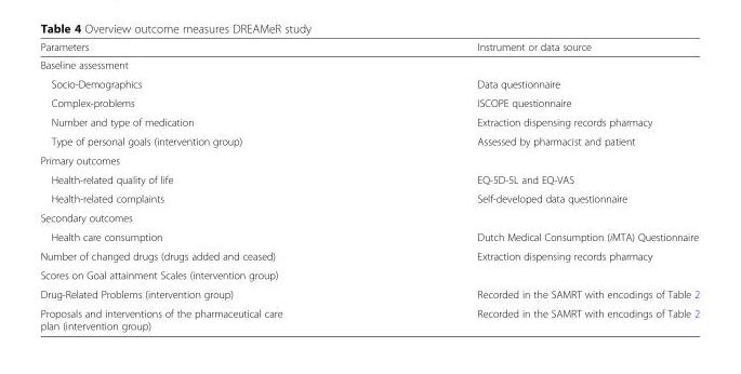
<table><thead><tr><td>Parameters</td><td>Instrument or data source</td></tr></thead><tbody><tr><td colspan="2">Baseline assessment</td></tr><tr><td>Socio-Demographics</td><td>Data questionnaire</td></tr><tr><td>Complex-problems</td><td>ISCOPE questionnaire</td></tr><tr><td>Number and type of medication</td><td>Extraction dispensing records pharmacy</td></tr><tr><td>Type of personal goals (intervention group)</td><td>Assessed by pharmacist and patient</td></tr><tr><td colspan="2">Primary outcomes</td></tr><tr><td>Health-related quality of life</td><td>EQ-5D-5L and EQ-VAS</td></tr><tr><td>Health-related complaints</td><td>Self-developed data questionnaire</td></tr><tr><td colspan="2">Secondary outcomes</td></tr><tr><td>Health care consumption</td><td>Dutch Medical Consumption (iMTA) Questionnaire</td></tr><tr><td>Number of changed drugs (drugs added and ceased)</td><td>Extraction dispensing records pharmacy</td></tr><tr><td colspan="2">Scores on Goal attainment Scales (intervention group)</td></tr><tr><td>Drug-Related Problems (intervention group)</td><td>Recorded in the SAMRT with encodings of Table 2</td></tr><tr><td>Proposals and interventions of the pharmaceutical care plan (intervention group)</td><td>Recorded in the SAMRT with encodings of Table 2</td></tr></tbody></table>